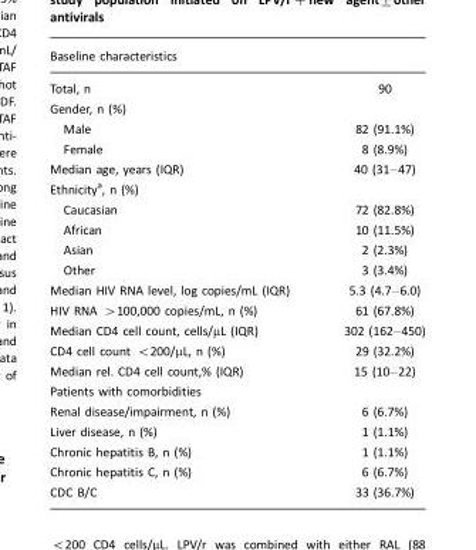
<table><thead><tr><td>Baseline characteristics</td><td></td></tr></thead><tbody><tr><td>Total, n</td><td>90</td></tr><tr><td colspan="2">Gender, n (%)</td></tr><tr><td>Male</td><td>82 (91.1%)</td></tr><tr><td>Female</td><td>8 (8.9%)</td></tr><tr><td>Median age, years (IQR)</td><td>40 (31–47)</td></tr><tr><td colspan="2">Ethnicitya, n (%)</td></tr><tr><td>Caucasian</td><td>72 (82.8%)</td></tr><tr><td>African</td><td>10 (11.5%)</td></tr><tr><td>Asian</td><td>2 (2.3%)</td></tr><tr><td>Other</td><td>3 (3.4%)</td></tr><tr><td>Median HIV RNA level, log copies/mL (IQR)</td><td>5.3 (4.7–6.0)</td></tr><tr><td>HIV RNA &gt;100,000 copies/mL, n (%)</td><td>61 (67.8%)</td></tr><tr><td>Median CD4 cell count, cells/µL (IQR)</td><td>302 (162–450)</td></tr><tr><td>CD4 cell count &lt;200/µL, n (%)</td><td>29 (32.2%)</td></tr><tr><td>Median rel. CD4 cell count,% (IQR)</td><td>15 (10–22)</td></tr><tr><td colspan="2">Patients with comorbidities</td></tr><tr><td>Renal disease/impairment, n (%)</td><td>6 (6.7%)</td></tr><tr><td>Liver disease, n (%)</td><td>1 (1.1%)</td></tr><tr><td>Chronic hepatitis B, n (%)</td><td>1 (1.1%)</td></tr><tr><td>Chronic hepatitis C, n (%)</td><td>6 (6.7%)</td></tr><tr><td>CDC B/C</td><td>33 (36.7%)</td></tr></tbody></table>